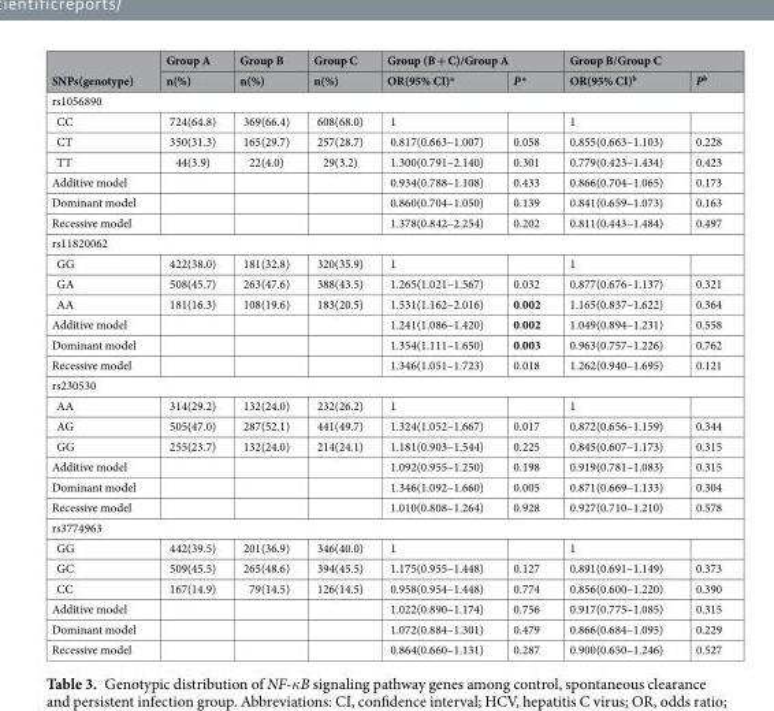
<table><thead><tr><td rowspan="2">SNPs(genotype)</td><td rowspan="2">Group A n(%)</td><td rowspan="2">Group B n(%)</td><td rowspan="2">Group C n(%)</td><td colspan="2">Group (B + C)/Group A</td><td colspan="2">Group B/Group C</td></tr><tr><td>OR(95% CI)<sup>a</sup></td><td>P <sup>a</sup></td><td>OR(95% CI)<sup>b</sup></td><td>P<sup>b</sup></td></tr></thead><tbody><tr><td colspan="8">rs1056890</td></tr><tr><td>CC</td><td>724(64.8)</td><td>369(66.4)</td><td>608(68.0)</td><td>1</td><td></td><td>1</td><td></td></tr><tr><td>CT</td><td>350(31.3)</td><td>165(29.7)</td><td>257(28.7)</td><td>0.817(0.663–1.007)</td><td>0.058</td><td>0.855(0.663–1.103)</td><td>0.228</td></tr><tr><td>TT</td><td>44(3.9)</td><td>22(4.0)</td><td>29(3.2)</td><td>1.300(0.791–2.140)</td><td>0.301</td><td>0.779(0.423–1.434)</td><td>0.423</td></tr><tr><td>Additive model</td><td></td><td></td><td></td><td>0.934(0.788–1.108)</td><td>0.433</td><td>0.866(0.704–1.065)</td><td>0.173</td></tr><tr><td>Dominant model</td><td></td><td></td><td></td><td>0.860(0.704–1.050)</td><td>0.139</td><td>0.841(0.659–1.073)</td><td>0.163</td></tr><tr><td>Recessive model</td><td></td><td></td><td></td><td>1.378(0.842–2.254)</td><td>0.202</td><td>0.811(0.443–1.484)</td><td>0.497</td></tr><tr><td colspan="8">rs11820062</td></tr><tr><td>GG</td><td>422(38.0)</td><td>181(32.8)</td><td>320(35.9)</td><td>1</td><td></td><td>1</td><td></td></tr><tr><td>GA</td><td>508(45.7)</td><td>263(47.6)</td><td>388(43.5)</td><td>1.265(1.021–1.567)</td><td>0.032</td><td>0.877(0.676–1.137)</td><td>0.321</td></tr><tr><td>AA</td><td>181(16.3)</td><td>108(19.6)</td><td>183(20.5)</td><td>1.531(1.162–2.016)</td><td>0.002</td><td>1.165(0.837–1.622)</td><td>0.364</td></tr><tr><td>Additive model</td><td></td><td></td><td></td><td>1.241(1.086–1.420)</td><td>0.002</td><td>1.049(0.894–1.231)</td><td>0.558</td></tr><tr><td>Dominant model</td><td></td><td></td><td></td><td>1.354(1.111–1.650)</td><td>0.003</td><td>0.963(0.757–1.226)</td><td>0.762</td></tr><tr><td>Recessive model</td><td></td><td></td><td></td><td>1.346(1.051–1.723)</td><td>0.018</td><td>1.262(0.940–1.695)</td><td>0.121</td></tr><tr><td colspan="8">rs230530</td></tr><tr><td>AA</td><td>314(29.2)</td><td>132(24.0)</td><td>232(26.2)</td><td>1</td><td></td><td>1</td><td></td></tr><tr><td>AG</td><td>505(47.0)</td><td>287(52.1)</td><td>441(49.7)</td><td>1.324(1.052–1.667)</td><td>0.017</td><td>0.872(0.656–1.159)</td><td>0.344</td></tr><tr><td>GG</td><td>255(23.7)</td><td>132(24.0)</td><td>214(24.1)</td><td>1.181(0.903–1.544)</td><td>0.225</td><td>0.845(0.607–1.173)</td><td>0.315</td></tr><tr><td>Additive model</td><td></td><td></td><td></td><td>1.092(0.955–1.250)</td><td>0.198</td><td>0.919(0.781–1.083)</td><td>0.315</td></tr><tr><td>Dominant model</td><td></td><td></td><td></td><td>1.346(1.092–1.660)</td><td>0.005</td><td>0.871(0.669–1.133)</td><td>0.304</td></tr><tr><td>Recessive model</td><td></td><td></td><td></td><td>1.010(0.808–1.264)</td><td>0.928</td><td>0.927(0.710–1.210)</td><td>0.578</td></tr><tr><td colspan="8">rs3774963</td></tr><tr><td>GG</td><td>442(39.5)</td><td>201(36.9)</td><td>346(40.0)</td><td>1</td><td></td><td>1</td><td></td></tr><tr><td>GC</td><td>509(45.5)</td><td>265(48.6)</td><td>394(45.5)</td><td>1.175(0.955–1.448)</td><td>0.127</td><td>0.891(0.691–1.149)</td><td>0.373</td></tr><tr><td>CC</td><td>167(14.9)</td><td>79(14.5)</td><td>126(14.5)</td><td>0.958(0.954–1.448)</td><td>0.774</td><td>0.856(0.600–1.220)</td><td>0.390</td></tr><tr><td>Additive model</td><td></td><td></td><td></td><td>1.022(0.890–1.174)</td><td>0.756</td><td>0.917(0.775–1.085)</td><td>0.315</td></tr><tr><td>Dominant model</td><td></td><td></td><td></td><td>1.072(0.884–1.301)</td><td>0.479</td><td>0.866(0.684–1.095)</td><td>0.229</td></tr><tr><td>Recessive model</td><td></td><td></td><td></td><td>0.864(0.660–1.131)</td><td>0.287</td><td>0.900(0.650–1.246)</td><td>0.527</td></tr></tbody></table>